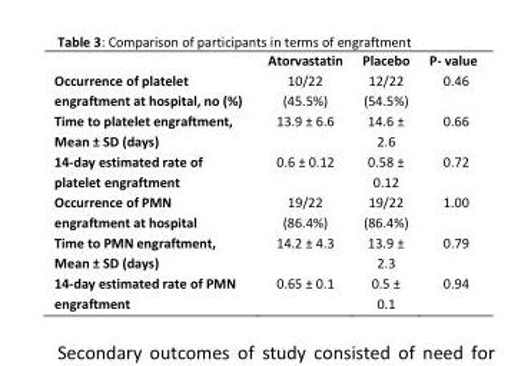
<table><thead><tr><td></td><td>Atorvastatin</td><td>Placebo</td><td>P- value</td></tr></thead><tbody><tr><td>Occurrence of platelet engraftment at hospital, no (%)</td><td>10/22 (45.5%)</td><td>12/22 (54.5%)</td><td>0.46</td></tr><tr><td>Time to platelet engraftment, Mean ± SD (days)</td><td>13.9 ± 6.6</td><td>14.6 ± 2.6</td><td>0.66</td></tr><tr><td>14-day estimated rate of platelet engraftment</td><td>0.6 ± 0.12</td><td>0.58 ± 0.12</td><td>0.72</td></tr><tr><td>Occurrence of PMN engraftment at hospital</td><td>19/22 (86.4%)</td><td>19/22 (86.4%)</td><td>1.00</td></tr><tr><td>Time to PMN engraftment, Mean ± SD (days)</td><td>14.2 ± 4.3</td><td>13.9 ± 2.3</td><td>0.79</td></tr><tr><td>14-day estimated rate of PMN engraftment</td><td>0.65 ± 0.1</td><td>0.5 ± 0.1</td><td>0.94</td></tr></tbody></table>